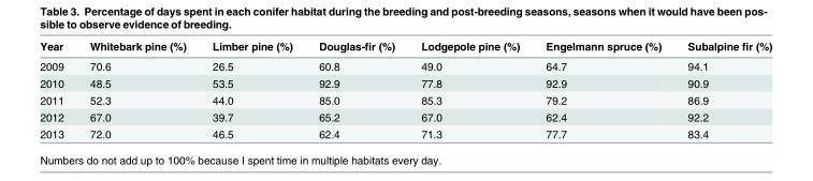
<table><thead><tr><td>Year</td><td>Whitebark pine (%)</td><td>Limber pine (%)</td><td>Douglas-fir (%)</td><td>Lodgepole pine (%)</td><td>Engelmann spruce (%)</td><td>Subalpine fir (%)</td></tr></thead><tbody><tr><td>2009</td><td>70.6</td><td>26.5</td><td>60.8</td><td>49.0</td><td>64.7</td><td>94.1</td></tr><tr><td>2010</td><td>48.5</td><td>53.5</td><td>92.9</td><td>77.8</td><td>92.9</td><td>90.9</td></tr><tr><td>2011</td><td>52.3</td><td>44.0</td><td>85.0</td><td>85.3</td><td>79.2</td><td>86.9</td></tr><tr><td>2012</td><td>67.0</td><td>39.7</td><td>65.2</td><td>67.0</td><td>62.4</td><td>92.2</td></tr><tr><td>2013</td><td>72.0</td><td>46.5</td><td>62.4</td><td>71.3</td><td>77.7</td><td>83.4</td></tr></tbody></table>